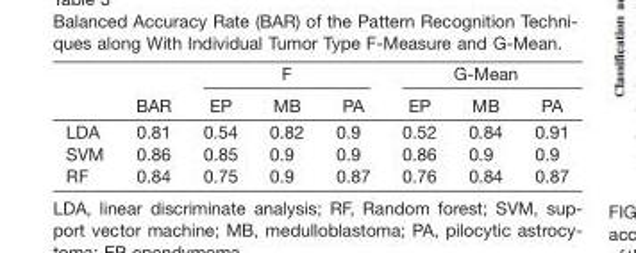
<table><thead><tr><td rowspan="2"></td><td rowspan="2">BAR</td><td colspan="3">F</td><td colspan="3">G-Mean</td></tr><tr><td>EP</td><td>MB</td><td>PA</td><td>EP</td><td>MB</td><td>PA</td></tr></thead><tbody><tr><td>LDA</td><td>0.81</td><td>0.54</td><td>0.82</td><td>0.9</td><td>0.52</td><td>0.84</td><td>0.91</td></tr><tr><td>SVM</td><td>0.86</td><td>0.85</td><td>0.9</td><td>0.9</td><td>0.86</td><td>0.9</td><td>0.9</td></tr><tr><td>RF</td><td>0.84</td><td>0.75</td><td>0.9</td><td>0.87</td><td>0.76</td><td>0.84</td><td>0.87</td></tr></tbody></table>